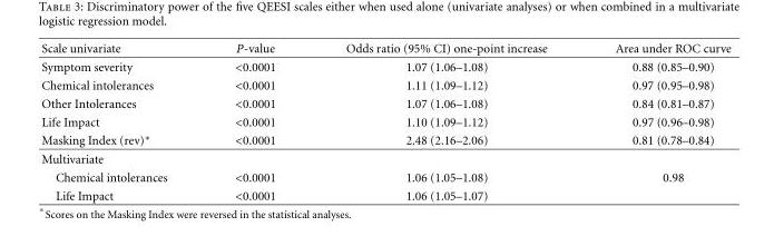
<table><thead><tr><td>Scale univariate</td><td>P-value</td><td>Odds ratio (95% CI) one-point increase</td><td>Area under ROC curve</td></tr></thead><tbody><tr><td>Symptom severity</td><td>&lt;0.0001</td><td>1.07 (1.06–1.08)</td><td>0.88 (0.85–0.90)</td></tr><tr><td>Chemical intolerances</td><td>&lt;0.0001</td><td>1.11 (1.09–1.12)</td><td>0.97 (0.95–0.98)</td></tr><tr><td>Other Intolerances</td><td>&lt;0.0001</td><td>1.07 (1.06–1.08)</td><td>0.84 (0.81–0.87)</td></tr><tr><td>Life Impact</td><td>&lt;0.0001</td><td>1.10 (1.09–1.12)</td><td>0.97 (0.96–0.98)</td></tr><tr><td>Masking Index (rev)∗</td><td>&lt;0.0001</td><td>2.48 (2.16–2.06)</td><td>0.81 (0.78–0.84)</td></tr><tr><td colspan="4">Multivariate</td></tr><tr><td>Chemical intolerances</td><td>&lt;0.0001</td><td>1.06 (1.05–1.08)</td><td>0.98</td></tr><tr><td>Life Impact</td><td>&lt;0.0001</td><td>1.06 (1.05–1.07)</td><td></td></tr></tbody></table>